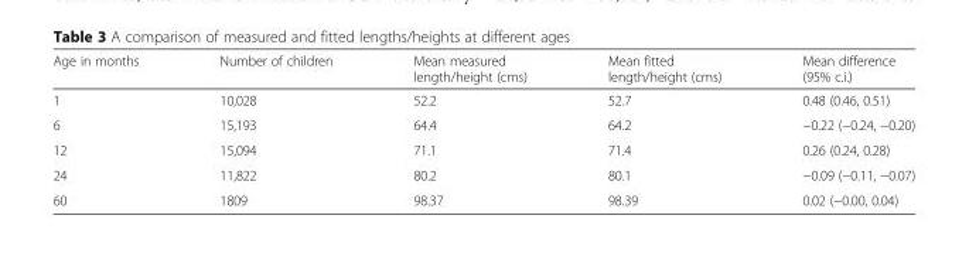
<table><thead><tr><td>Age in months</td><td>Number of children</td><td>Mean measured length/height (cms)</td><td>Mean fitted length/height (cms)</td><td>Mean difference (95% c.i.)</td></tr></thead><tbody><tr><td>1</td><td>10,028</td><td>52.2</td><td>52.7</td><td>0.48 (0.46, 0.51)</td></tr><tr><td>6</td><td>15,193</td><td>64.4</td><td>64.2</td><td>−0.22 (−0.24, −0.20)</td></tr><tr><td>12</td><td>15,094</td><td>71.1</td><td>71.4</td><td>0.26 (0.24, 0.28)</td></tr><tr><td>24</td><td>11,822</td><td>80.2</td><td>80.1</td><td>−0.09 (−0.11, −0.07)</td></tr><tr><td>60</td><td>1809</td><td>98.37</td><td>98.39</td><td>0.02 (−0.00, 0.04)</td></tr></tbody></table>